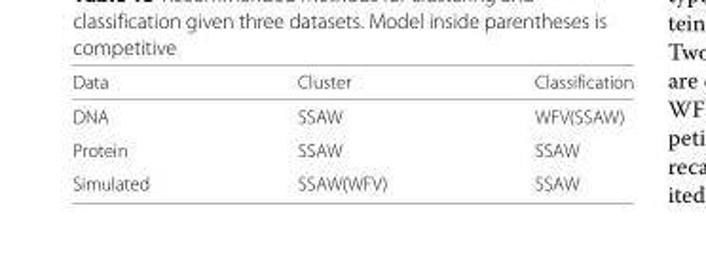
<table><thead><tr><td>Data</td><td>Cluster</td><td>Classification</td></tr></thead><tbody><tr><td>DNA</td><td>SSAW</td><td>WFV(SSAW)</td></tr><tr><td>Protein</td><td>SSAW</td><td>SSAW</td></tr><tr><td>Simulated</td><td>SSAW(WFV)</td><td>SSAW</td></tr></tbody></table>